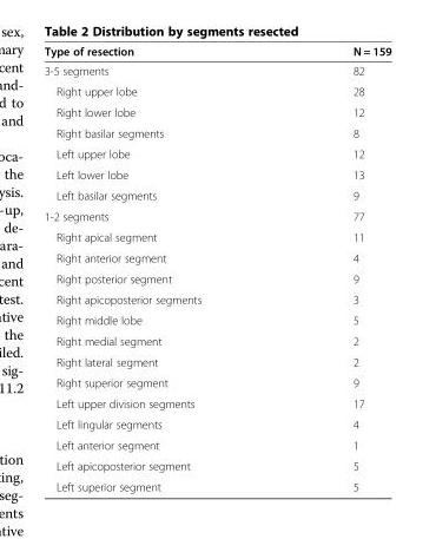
<table><thead><tr><td>Type of resection</td><td>N = 159</td></tr></thead><tbody><tr><td>3-5 segments</td><td>82</td></tr><tr><td>Right upper lobe</td><td>28</td></tr><tr><td>Right lower lobe</td><td>12</td></tr><tr><td>Right basilar segments</td><td>8</td></tr><tr><td>Left upper lobe</td><td>12</td></tr><tr><td>Left lower lobe</td><td>13</td></tr><tr><td>Left basilar segments</td><td>9</td></tr><tr><td>1-2 segments</td><td>77</td></tr><tr><td>Right apical segment</td><td>11</td></tr><tr><td>Right anterior segment</td><td>4</td></tr><tr><td>Right posterior segment</td><td>9</td></tr><tr><td>Right apicoposterior segments</td><td>3</td></tr><tr><td>Right middle lobe</td><td>5</td></tr><tr><td>Right medial segment</td><td>2</td></tr><tr><td>Right lateral segment</td><td>2</td></tr><tr><td>Right superior segment</td><td>9</td></tr><tr><td>Left upper division segments</td><td>17</td></tr><tr><td>Left lingular segments</td><td>4</td></tr><tr><td>Left anterior segment</td><td>1</td></tr><tr><td>Left apicoposterior segment</td><td>5</td></tr><tr><td>Left superior segment</td><td>5</td></tr></tbody></table>